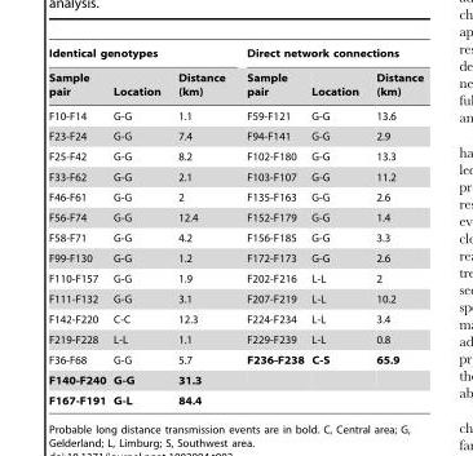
<table><thead><tr><td colspan="3">Identical genotypes</td><td colspan="3">Direct network connections</td></tr><tr><td>Sample pair</td><td>Location</td><td>Distance (km)</td><td>Sample pair</td><td>Location</td><td>Distance (km)</td></tr></thead><tbody><tr><td>F10-F14</td><td>G-G</td><td>1.1</td><td>F59-F121</td><td>G-G</td><td>13.6</td></tr><tr><td>F23-F24</td><td>G-G</td><td>7.4</td><td>F94-F141</td><td>G-G</td><td>2.9</td></tr><tr><td>F25-F42</td><td>G-G</td><td>8.2</td><td>F102-F180</td><td>G-G</td><td>13.3</td></tr><tr><td>F33-F62</td><td>G-G</td><td>2.1</td><td>F103-F107</td><td>G-G</td><td>11.2</td></tr><tr><td>F46-F61</td><td>G-G</td><td>2</td><td>F135-F163</td><td>G-G</td><td>2.6</td></tr><tr><td>F56-F74</td><td>G-G</td><td>12.4</td><td>F152-F179</td><td>G-G</td><td>1.4</td></tr><tr><td>F58-F71</td><td>G-G</td><td>4.2</td><td>F156-F185</td><td>G-G</td><td>3.3</td></tr><tr><td>F99-F130</td><td>G-G</td><td>1.2</td><td>F172-F173</td><td>G-G</td><td>2.6</td></tr><tr><td>F110-F157</td><td>G-G</td><td>1.9</td><td>F202-F216</td><td>L-L</td><td>2</td></tr><tr><td>F111-F132</td><td>G-G</td><td>3.1</td><td>F207-F219</td><td>L-L</td><td>10.2</td></tr><tr><td>F142-F220</td><td>C-C</td><td>12.3</td><td>F224-F234</td><td>L-L</td><td>3.4</td></tr><tr><td>F219-F228</td><td>L-L</td><td>1.1</td><td>F229-F239</td><td>L-L</td><td>0.8</td></tr><tr><td>F36-F68</td><td>G-G</td><td>5.7</td><td>F236-F238</td><td>C-S</td><td>65.9</td></tr><tr><td>F140-F240</td><td>G-G</td><td>31.3</td><td></td><td></td><td></td></tr><tr><td>F167-F191</td><td>G-L</td><td>84.4</td><td></td><td></td><td></td></tr></tbody></table>